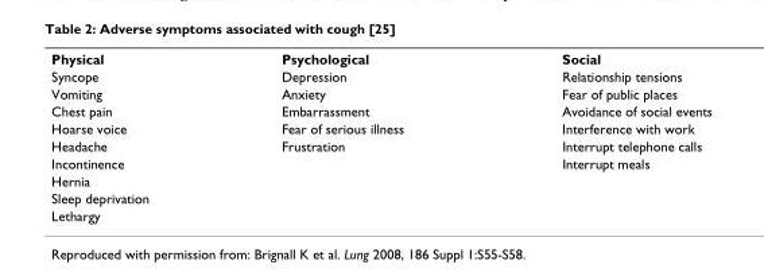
<table><tbody><tr><td>Physical</td><td>Psychological</td><td>Social</td></tr><tr><td>Syncope</td><td>Depression</td><td>Relationship tensions</td></tr><tr><td>Vomiting</td><td>Anxiety</td><td>Fear of public places</td></tr><tr><td>Chest pain</td><td>Embarrassment</td><td>Avoidance of social events</td></tr><tr><td>Hoarse voice</td><td>Fear of serious illness</td><td>Interference with work</td></tr><tr><td>Headache</td><td>Frustration</td><td>Interrupt telephone calls</td></tr><tr><td>Incontinence</td><td></td><td>Interrupt meals</td></tr><tr><td colspan="3">Hernia</td></tr><tr><td colspan="3">Sleep deprivation</td></tr><tr><td>Lethargy</td><td></td><td></td></tr></tbody></table>